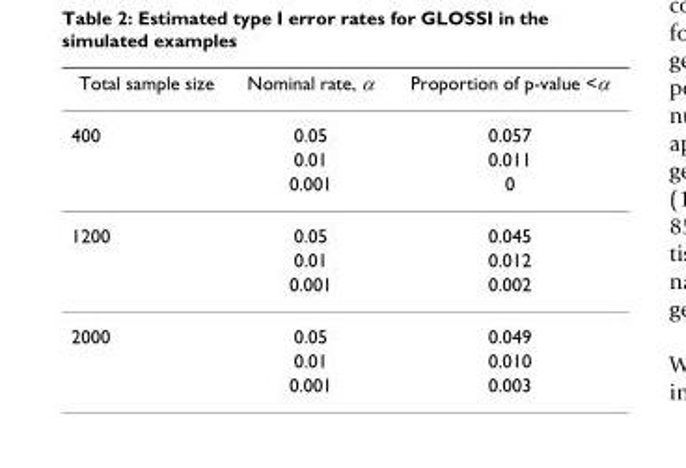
<table><thead><tr><td>Total sample size</td><td>Nominal rate, α</td><td>Proportion of p-value &lt;α</td></tr></thead><tbody><tr><td rowspan="3">400</td><td>0.05</td><td>0.057</td></tr><tr><td>0.01</td><td>0.011</td></tr><tr><td>0.001</td><td>0</td></tr><tr><td rowspan="3">1200</td><td>0.05</td><td>0.045</td></tr><tr><td>0.01</td><td>0.012</td></tr><tr><td>0.001</td><td>0.002</td></tr><tr><td rowspan="3">2000</td><td>0.05</td><td>0.049</td></tr><tr><td>0.01</td><td>0.010</td></tr><tr><td>0.001</td><td>0.003</td></tr></tbody></table>